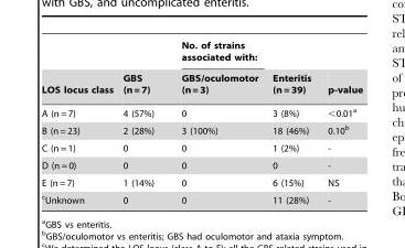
<table><thead><tr><td rowspan="2">LOS locus class</td><td rowspan="2">GBS (n = 7)</td><td rowspan="2">No. of strains associated with: GBS/oculomotor (n = 3)</td><td rowspan="2">Enteritis (n = 39)</td><td rowspan="2">p-value</td></tr><tr></tr></thead><tbody><tr><td>A (n = 7)</td><td>4 (57%)</td><td>0</td><td>3 (8%)</td><td>&lt;0.01<sup>a</sup></td></tr><tr><td>B (n = 23)</td><td>2 (28%)</td><td>3 (100%)</td><td>18 (46%)</td><td>0.10<sup>b</sup></td></tr><tr><td>C (n = 1)</td><td>0</td><td>0</td><td>1 (2%)</td><td>-</td></tr><tr><td>D (n = 0)</td><td>0</td><td>0</td><td>0</td><td>-</td></tr><tr><td>E (n = 7)</td><td>1 (14%)</td><td>0</td><td>6 (15%)</td><td>NS</td></tr><tr><td>cUnknown</td><td>0</td><td>0</td><td>11 (28%)</td><td>-</td></tr></tbody></table>